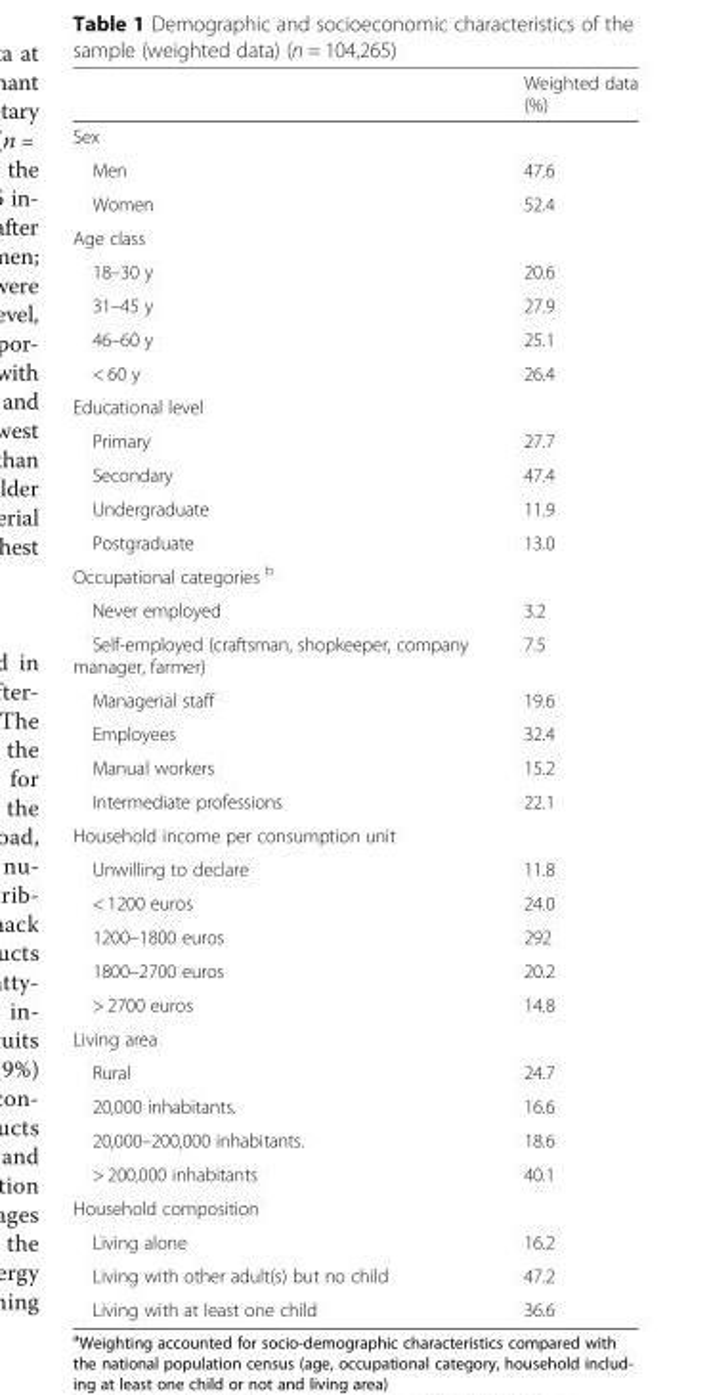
<table><thead><tr><td></td><td>Weighted data (%)</td></tr></thead><tbody><tr><td colspan="2">Sex</td></tr><tr><td>Men</td><td>47.6</td></tr><tr><td>Women</td><td>52.4</td></tr><tr><td colspan="2">Age class</td></tr><tr><td>18–30 y</td><td>20.6</td></tr><tr><td>31–45 y</td><td>27.9</td></tr><tr><td>46–60 y</td><td>25.1</td></tr><tr><td>&lt; 60 y</td><td>26.4</td></tr><tr><td colspan="2">Educational level</td></tr><tr><td>Primary</td><td>27.7</td></tr><tr><td>Secondary</td><td>47.4</td></tr><tr><td>Undergraduate</td><td>11.9</td></tr><tr><td>Postgraduate</td><td>13.0</td></tr><tr><td colspan="2">Occupational categories <sup>b</sup></td></tr><tr><td>Never employed</td><td>3.2</td></tr><tr><td>Self-employed (craftsman, shopkeeper, company manager, farmer)</td><td>7.5</td></tr><tr><td>Managerial staff</td><td>19.6</td></tr><tr><td>Employees</td><td>32.4</td></tr><tr><td>Manual workers</td><td>15.2</td></tr><tr><td>Intermediate professions</td><td>22.1</td></tr><tr><td colspan="2">Household income per consumption unit</td></tr><tr><td>Unwilling to declare</td><td>11.8</td></tr><tr><td>&lt; 1200 euros</td><td>24.0</td></tr><tr><td>1200–1800 euros</td><td>292</td></tr><tr><td>1800–2700 euros</td><td>20.2</td></tr><tr><td>&gt; 2700 euros</td><td>14.8</td></tr><tr><td colspan="2">Living area</td></tr><tr><td>Rural</td><td>24.7</td></tr><tr><td>20,000 inhabitants.</td><td>16.6</td></tr><tr><td>20,000–200,000 inhabitants.</td><td>18.6</td></tr><tr><td>&gt; 200,000 inhabitants</td><td>40.1</td></tr><tr><td colspan="2">Household composition</td></tr><tr><td>Living alone</td><td>16.2</td></tr><tr><td>Living with other adult(s) but no child</td><td>47.2</td></tr><tr><td>Living with at least one child</td><td>36.6</td></tr></tbody></table>